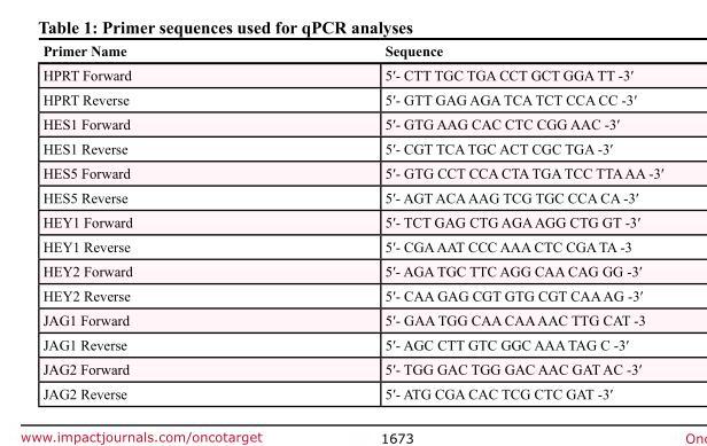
<table><thead><tr><td>Primer Name</td><td>Sequence</td></tr></thead><tbody><tr><td>HPRT Forward</td><td>5′- CTT TGC TGA CCT GCT GGA TT -3′</td></tr><tr><td>HPRT Reverse</td><td>5′- GTT GAG AGA TCA TCT CCA CC -3′</td></tr><tr><td>HES1 Forward</td><td>5′- GTG AAG CAC CTC CGG AAC -3′</td></tr><tr><td>HES1 Reverse</td><td>5′- CGT TCA TGC ACT CGC TGA -3′</td></tr><tr><td>HES5 Forward</td><td>5′- GTG CCT CCA CTA TGA TCC TTA AA -3′</td></tr><tr><td>HES5 Reverse</td><td>5′- AGT ACA AAG TCG TGC CCA CA -3′</td></tr><tr><td>HEY1 Forward</td><td>5′- TCT GAG CTG AGA AGG CTG GT -3′</td></tr><tr><td>HEY1 Reverse</td><td>5′- CGA AAT CCC AAA CTC CGA TA -3</td></tr><tr><td>HEY2 Forward</td><td>5′- AGA TGC TTC AGG CAA CAG GG -3′</td></tr><tr><td>HEY2 Reverse</td><td>5′- CAA GAG CGT GTG CGT CAA AG -3′</td></tr><tr><td>JAG1 Forward</td><td>5′- GAA TGG CAA CAA AAC TTG CAT -3</td></tr><tr><td>JAG1 Reverse</td><td>5′- AGC CTT GTC GGC AAA TAG C -3′</td></tr><tr><td>JAG2 Forward</td><td>5′- TGG GAC TGG GAC AAC GAT AC -3′</td></tr><tr><td>JAG2 Reverse</td><td>5′- ATG CGA CAC TCG CTC GAT -3′</td></tr></tbody></table>